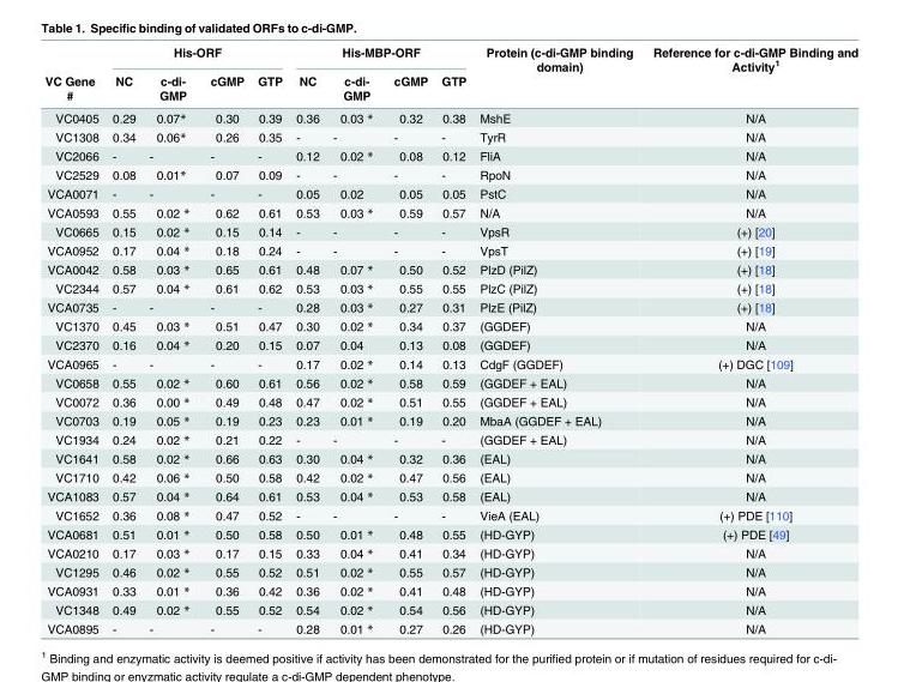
<table><thead><tr><td rowspan="2">VC Gene #</td><td colspan="4">His-ORF</td><td colspan="4">His-MBP-ORF</td><td rowspan="2">Protein (c-di-GMP binding domain)</td><td rowspan="2">Reference for c-di-GMP Binding and Activity<sup>1</sup></td></tr><tr><td>NC</td><td>c-di- GMP</td><td>cGMP</td><td>GTP</td><td>NC</td><td>c-di- GMP</td><td>cGMP</td><td>GTP</td></tr></thead><tbody><tr><td>VC0405</td><td>0.29</td><td>0.07*</td><td>0.30</td><td>0.39</td><td>0.36</td><td>0.03 *</td><td>0.32</td><td>0.38</td><td>MshE</td><td>N/A</td></tr><tr><td>VC1308</td><td>0.34</td><td>0.06*</td><td>0.26</td><td>0.35</td><td>-</td><td>-</td><td>-</td><td>-</td><td>TyrR</td><td>N/A</td></tr><tr><td>VC2066</td><td>-</td><td>-</td><td>-</td><td>-</td><td>0.12</td><td>0.02 *</td><td>0.08</td><td>0.12</td><td>FliA</td><td>N/A</td></tr><tr><td>VC2529</td><td>0.08</td><td>0.01*</td><td>0.07</td><td>0.09</td><td>-</td><td>-</td><td>-</td><td>-</td><td>RpoN</td><td>N/A</td></tr><tr><td>VCA0071</td><td>-</td><td>-</td><td>-</td><td>-</td><td>0.05</td><td>0.02</td><td>0.05</td><td>0.05</td><td>PstC</td><td>N/A</td></tr><tr><td>VCA0593</td><td>0.55</td><td>0.02 *</td><td>0.62</td><td>0.61</td><td>0.53</td><td>0.03 *</td><td>0.59</td><td>0.57</td><td>N/A</td><td>N/A</td></tr><tr><td>VC0665</td><td>0.15</td><td>0.02 *</td><td>0.15</td><td>0.14</td><td>-</td><td>-</td><td>-</td><td>-</td><td>VpsR</td><td>(+) [20]</td></tr><tr><td>VCA0952</td><td>0.17</td><td>0.04 *</td><td>0.18</td><td>0.24</td><td>-</td><td>-</td><td>-</td><td>-</td><td>VpsT</td><td>(+) [19]</td></tr><tr><td>VCA0042</td><td>0.58</td><td>0.03 *</td><td>0.65</td><td>0.61</td><td>0.48</td><td>0.07 *</td><td>0.50</td><td>0.52</td><td>PlzD (PilZ)</td><td>(+) [18]</td></tr><tr><td>VC2344</td><td>0.57</td><td>0.04 *</td><td>0.61</td><td>0.62</td><td>0.53</td><td>0.03 *</td><td>0.55</td><td>0.55</td><td>PlzC (PilZ)</td><td>(+) [18]</td></tr><tr><td>VCA0735</td><td>-</td><td>-</td><td>-</td><td>-</td><td>0.28</td><td>0.03 *</td><td>0.27</td><td>0.31</td><td>PlzE (PilZ)</td><td>(+) [18]</td></tr><tr><td>VC1370</td><td>0.45</td><td>0.03 *</td><td>0.51</td><td>0.47</td><td>0.30</td><td>0.02 *</td><td>0.34</td><td>0.37</td><td>(GGDEF)</td><td>N/A</td></tr><tr><td>VC2370</td><td>0.16</td><td>0.04 *</td><td>0.20</td><td>0.15</td><td>0.07</td><td>0.04</td><td>0.13</td><td>0.08</td><td>(GGDEF)</td><td>N/A</td></tr><tr><td>VCA0965</td><td>-</td><td>-</td><td>-</td><td>-</td><td>0.17</td><td>0.02 *</td><td>0.14</td><td>0.13</td><td>CdgF (GGDEF)</td><td>(+) DGC [109]</td></tr><tr><td>VC0658</td><td>0.55</td><td>0.02 *</td><td>0.60</td><td>0.61</td><td>0.56</td><td>0.02 *</td><td>0.58</td><td>0.59</td><td>(GGDEF + EAL)</td><td>N/A</td></tr><tr><td>VC0072</td><td>0.36</td><td>0.00 *</td><td>0.49</td><td>0.48</td><td>0.47</td><td>0.02 *</td><td>0.51</td><td>0.55</td><td>(GGDEF + EAL)</td><td>N/A</td></tr><tr><td>VC0703</td><td>0.19</td><td>0.05 *</td><td>0.19</td><td>0.23</td><td>0.23</td><td>0.01 *</td><td>0.19</td><td>0.20</td><td>MbaA (GGDEF + EAL)</td><td>N/A</td></tr><tr><td>VC1934</td><td>0.24</td><td>0.02 *</td><td>0.21</td><td>0.22</td><td>-</td><td>-</td><td>-</td><td>-</td><td>(GGDEF + EAL)</td><td>N/A</td></tr><tr><td>VC1641</td><td>0.58</td><td>0.02 *</td><td>0.66</td><td>0.63</td><td>0.30</td><td>0.04 *</td><td>0.32</td><td>0.36</td><td>(EAL)</td><td>N/A</td></tr><tr><td>VC1710</td><td>0.42</td><td>0.06 *</td><td>0.50</td><td>0.58</td><td>0.42</td><td>0.02 *</td><td>0.47</td><td>0.56</td><td>(EAL)</td><td>N/A</td></tr><tr><td>VCA1083</td><td>0.57</td><td>0.04 *</td><td>0.64</td><td>0.61</td><td>0.53</td><td>0.04 *</td><td>0.53</td><td>0.58</td><td>(EAL)</td><td>N/A</td></tr><tr><td>VC1652</td><td>0.36</td><td>0.08 *</td><td>0.47</td><td>0.52</td><td>-</td><td>-</td><td>-</td><td>-</td><td>VieA (EAL)</td><td>(+) PDE [110]</td></tr><tr><td>VCA0681</td><td>0.51</td><td>0.01 *</td><td>0.50</td><td>0.58</td><td>0.50</td><td>0.01 *</td><td>0.48</td><td>0.55</td><td>(HD-GYP)</td><td>(+) PDE [49]</td></tr><tr><td>VCA0210</td><td>0.17</td><td>0.03 *</td><td>0.17</td><td>0.15</td><td>0.33</td><td>0.04 *</td><td>0.41</td><td>0.34</td><td>(HD-GYP)</td><td>N/A</td></tr><tr><td>VC1295</td><td>0.46</td><td>0.02 *</td><td>0.55</td><td>0.52</td><td>0.51</td><td>0.02 *</td><td>0.55</td><td>0.57</td><td>(HD-GYP)</td><td>N/A</td></tr><tr><td>VCA0931</td><td>0.33</td><td>0.01 *</td><td>0.36</td><td>0.42</td><td>0.36</td><td>0.02 *</td><td>0.41</td><td>0.48</td><td>(HD-GYP)</td><td>N/A</td></tr><tr><td>VC1348</td><td>0.49</td><td>0.02 *</td><td>0.55</td><td>0.52</td><td>0.54</td><td>0.02 *</td><td>0.54</td><td>0.56</td><td>(HD-GYP)</td><td>N/A</td></tr><tr><td>VCA0895</td><td>-</td><td>-</td><td>-</td><td>-</td><td>0.28</td><td>0.01 *</td><td>0.27</td><td>0.26</td><td>(HD-GYP)</td><td>N/A</td></tr></tbody></table>